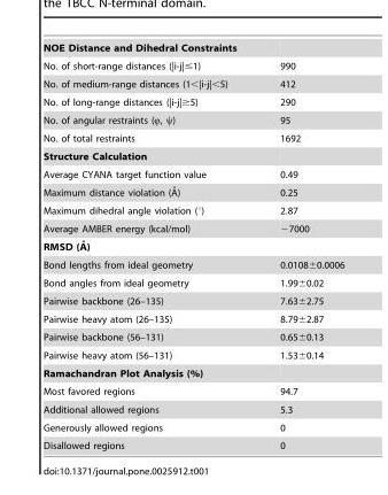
<table><tbody><tr><td colspan="2">NOE Distance and Dihedral Constraints</td></tr><tr><td>No. of short-range distances (|i-j|≤1)</td><td>990</td></tr><tr><td>No. of medium-range distances (1&lt;|i-j|&lt;5)</td><td>412</td></tr><tr><td>No. of long-range distances (|i-j|≥5)</td><td>290</td></tr><tr><td>No. of angular restraints (ϕ, ψ)</td><td>95</td></tr><tr><td>No. of total restraints</td><td>1692</td></tr><tr><td colspan="2">Structure Calculation</td></tr><tr><td>Average CYANA target function value</td><td>0.49</td></tr><tr><td>Maximum distance violation (A˚)</td><td>0.25</td></tr><tr><td>Maximum dihedral angle violation (°)</td><td>2.87</td></tr><tr><td>Average AMBER energy (kcal/mol)</td><td>−7000</td></tr><tr><td colspan="2">RMSD (A˚)</td></tr><tr><td>Bond lengths from ideal geometry</td><td>0.0108±0.0006</td></tr><tr><td>Bond angles from ideal geometry</td><td>1.99±0.02</td></tr><tr><td>Pairwise backbone (26–135)</td><td>7.63±2.75</td></tr><tr><td>Pairwise heavy atom (26–135)</td><td>8.79±2.87</td></tr><tr><td>Pairwise backbone (56–131)</td><td>0.65±0.13</td></tr><tr><td>Pairwise heavy atom (56–131)</td><td>1.53±0.14</td></tr><tr><td colspan="2">Ramachandran Plot Analysis (%)</td></tr><tr><td>Most favored regions</td><td>94.7</td></tr><tr><td>Additional allowed regions</td><td>5.3</td></tr><tr><td>Generously allowed regions</td><td>0</td></tr><tr><td>Disallowed regions</td><td>0</td></tr></tbody></table>